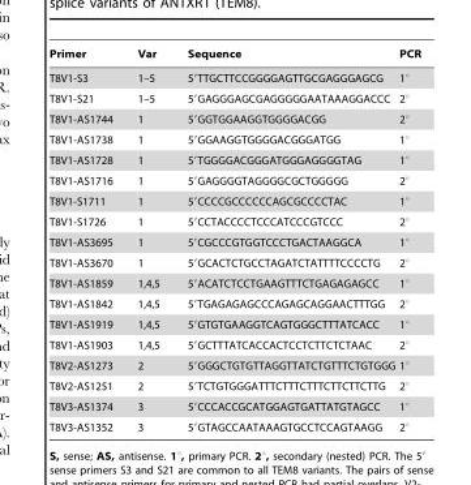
<table><thead><tr><td>Primer</td><td>Var</td><td>Sequence</td><td>PCR</td></tr></thead><tbody><tr><td>T8V1-S3</td><td>1–5</td><td>5′TTGCTTCCGGGGAGTTGCGAGGGAGCG</td><td>1°</td></tr><tr><td>T8V1-S21</td><td>1–5</td><td>5′GAGGGAGCGAGGGGGAATAAAGGACCC</td><td>2°</td></tr><tr><td>T8V1-AS1744</td><td>1</td><td>5′GGTGGAAGGTGGGGACGG</td><td>2°</td></tr><tr><td>T8V1-AS1738</td><td>1</td><td>5′GGAAGGTGGGGACGGGATGG</td><td>1°</td></tr><tr><td>T8V1-AS1728</td><td>1</td><td>5′TGGGGACGGGATGGGAGGGGTAG</td><td>1°</td></tr><tr><td>T8V1-AS1716</td><td>1</td><td>5′GAGGGGTAGGGGCGCTGGGGG</td><td>2°</td></tr><tr><td>T8V1-S1711</td><td>1</td><td>5′CCCCGCCCCCCAGCGCCCCTAC</td><td>1°</td></tr><tr><td>T8V1-S1726</td><td>1</td><td>5′CCTACCCCTCCCATCCCGTCCC</td><td>2°</td></tr><tr><td>T8V1-AS3695</td><td>1</td><td>5′CGCCCGTGGTCCCTGACTAAGGCA</td><td>1°</td></tr><tr><td>T8V1-AS3670</td><td>1</td><td>5′GCACTCTGCCTAGATCTATTTTCCCCTG</td><td>2°</td></tr><tr><td>T8V1-AS1859</td><td>1,4,5</td><td>5′ACATCTCCTGAAGTTTCTGAGAGAGCC</td><td>1°</td></tr><tr><td>T8V1-AS1842</td><td>1,4,5</td><td>5′TGAGAGAGCCCAGAGCAGGAACTTTGG</td><td>2°</td></tr><tr><td>T8V1-AS1919</td><td>1,4,5</td><td>5′GTGTGAAGGTCAGTGGGCTTTATCACC</td><td>1°</td></tr><tr><td>T8V1-AS1903</td><td>1,4,5</td><td>5′GCTTTATCACCACTCCTCTTCTCTAAC</td><td>2°</td></tr><tr><td>T8V2-AS1273</td><td>2</td><td>5′GGGCTGTGTTAGGTTATCTGTTTCTGTGGG</td><td>1°</td></tr><tr><td>T8V2-AS1251</td><td>2</td><td>5′TCTGTGGGATTTCTTTCTTTCTTCTTCTTG</td><td>2°</td></tr><tr><td>T8V3-AS1374</td><td>3</td><td>5′CCCACCGCATGGAGTGATTATGTAGCC</td><td>1°</td></tr><tr><td>T8V3-AS1352</td><td>3</td><td>5′GTAGCCAATAAAGTGCCTCCAGTAAGG</td><td>2°</td></tr></tbody></table>